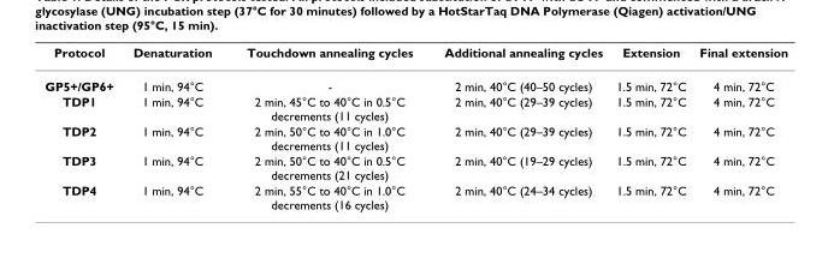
<table><thead><tr><td>Protocol</td><td>Denaturation</td><td>Touchdown annealing cycles</td><td>Additional annealing cycles</td><td>Extension</td><td>Final extension</td></tr></thead><tbody><tr><td>GP5+/GP6+</td><td>1 min, 94°C</td><td>-</td><td>2 min, 40°C (40–50 cycles)</td><td>1.5 min, 72°C</td><td>4 min, 72°C</td></tr><tr><td>TDP1</td><td>1 min, 94°C</td><td>2 min, 45°C to 40°C in 0.5°C decrements (11 cycles)</td><td>2 min, 40°C (29–39 cycles)</td><td>1.5 min, 72°C</td><td>4 min, 72°C</td></tr><tr><td>TDP2</td><td>1 min, 94°C</td><td>2 min, 50°C to 40°C in 1.0°C decrements (11 cycles)</td><td>2 min, 40°C (29–39 cycles)</td><td>1.5 min, 72°C</td><td>4 min, 72°C</td></tr><tr><td>TDP3</td><td>1 min, 94°C</td><td>2 min, 50°C to 40°C in 0.5°C decrements (21 cycles)</td><td>2 min, 40°C (19–29 cycles)</td><td>1.5 min, 72°C</td><td>4 min, 72°C</td></tr><tr><td>TDP4</td><td>1 min, 94°C</td><td>2 min, 55°C to 40°C in 1.0°C decrements (16 cycles)</td><td>2 min, 40°C (24–34 cycles)</td><td>1.5 min, 72°C</td><td>4 min, 72°C</td></tr></tbody></table>